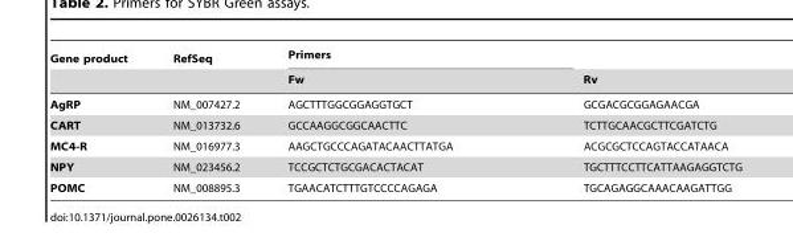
<table><thead><tr><td rowspan="2">Gene product</td><td rowspan="2">RefSeq</td><td rowspan="2">Primers Fw</td><td rowspan="2">Rv</td></tr><tr></tr></thead><tbody><tr><td>AgRP</td><td>NM_007427.2</td><td>AGCTTTGGCGGAGGTGCT</td><td>GCGACGCGGAGAACGA</td></tr><tr><td>CART</td><td>NM_013732.6</td><td>GCCAAGGCGGCAACTTC</td><td>TCTTGCAACGCTTCGATCTG</td></tr><tr><td>MC4-R</td><td>NM_016977.3</td><td>AAGCTGCCCAGATACAACTTATGA</td><td>ACGCGCTCCAGTACCATAACA</td></tr><tr><td>NPY</td><td>NM_023456.2</td><td>TCCGCTCTGCGACACTACAT</td><td>TGCTTTCCTTCATTAAGAGGTCTG</td></tr><tr><td>POMC</td><td>NM_008895.3</td><td>TGAACATCTTTGTCCCCAGAGA</td><td>TGCAGAGGCAAACAAGATTGG</td></tr></tbody></table>